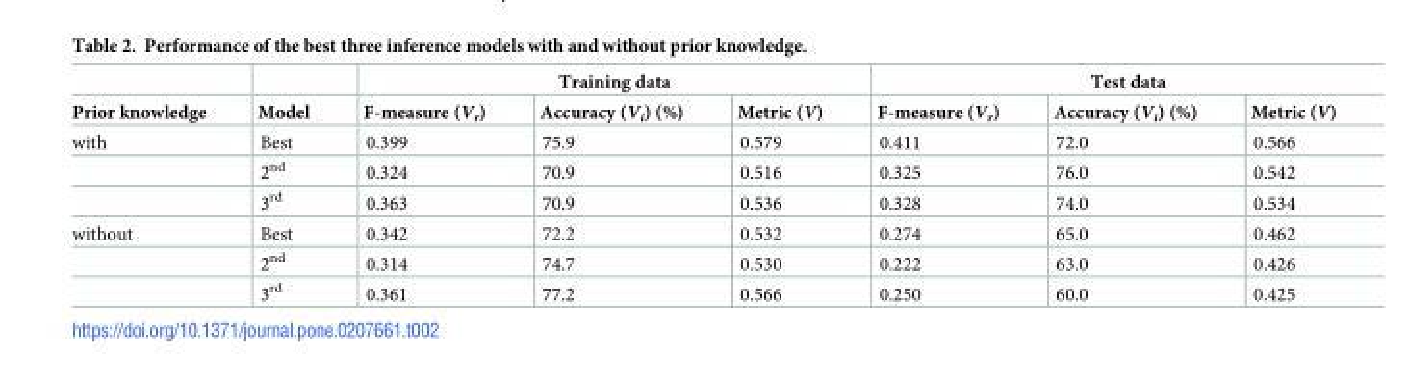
<table><thead><tr><td rowspan="2">Prior knowledge</td><td rowspan="2">Model</td><td colspan="3">Training data</td><td colspan="3">Test data</td></tr><tr><td>F-measure (V<sub>r</sub>)</td><td>Accuracy (V<sub>i</sub>) (%)</td><td>Metric (V)</td><td>F-measure (V<sub>r</sub>)</td><td>Accuracy (V<sub>i</sub>) (%)</td><td>Metric (V)</td></tr></thead><tbody><tr><td rowspan="3">with</td><td>Best</td><td>0.399</td><td>75.9</td><td>0.579</td><td>0.411</td><td>72.0</td><td>0.566</td></tr><tr><td>2<sup>nd</sup></td><td>0.324</td><td>70.9</td><td>0.516</td><td>0.325</td><td>76.0</td><td>0.542</td></tr><tr><td>3<sup>rd</sup></td><td>0.363</td><td>70.9</td><td>0.536</td><td>0.328</td><td>74.0</td><td>0.534</td></tr><tr><td rowspan="3">without</td><td>Best</td><td>0.342</td><td>72.2</td><td>0.532</td><td>0.274</td><td>65.0</td><td>0.462</td></tr><tr><td>2<sup>nd</sup></td><td>0.314</td><td>74.7</td><td>0.530</td><td>0.222</td><td>63.0</td><td>0.426</td></tr><tr><td>3<sup>rd</sup></td><td>0.361</td><td>77.2</td><td>0.566</td><td>0.250</td><td>60.0</td><td>0.425</td></tr></tbody></table>